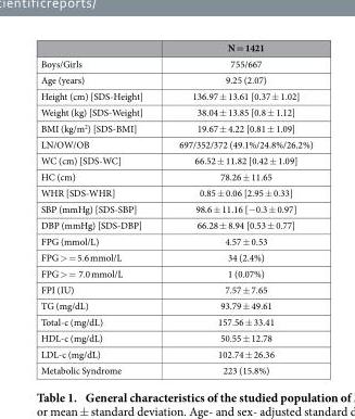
<table><thead><tr><td></td><td>N = 1421</td></tr></thead><tbody><tr><td>Boys/Girls</td><td>755/667</td></tr><tr><td>Age (years)</td><td>9.25 (2.07)</td></tr><tr><td>Height (cm) [SDS-Height]</td><td>136.97 ± 13.61 [0.37 ± 1.02]</td></tr><tr><td>Weight (kg) [SDS-Weight]</td><td>38.04 ± 13.85 [0.8 ± 1.12]</td></tr><tr><td>BMI (kg/m<sup>2</sup>) [SDS-BMI]</td><td>19.67 ± 4.22 [0.81 ± 1.09]</td></tr><tr><td>LN/OW/OB</td><td>697/352/372 (49.1%/24.8%/26.2%)</td></tr><tr><td>WC (cm) [SDS-WC]</td><td>66.52 ± 11.82 [0.42 ± 1.09]</td></tr><tr><td>HC (cm)</td><td>78.26 ± 11.65</td></tr><tr><td>WHR [SDS-WHR]</td><td>0.85 ± 0.06 [2.95 ± 0.33]</td></tr><tr><td>SBP (mmHg) [SDS-SBP]</td><td>98.6 ± 11.16 [− 0.3 ± 0.97]</td></tr><tr><td>DBP (mmHg) [SDS-DBP]</td><td>66.28 ± 8.94 [0.53 ± 0.77]</td></tr><tr><td>FPG (mmol/L)</td><td>4.57 ± 0.53</td></tr><tr><td>FPG &gt; = 5.6 mmol/L</td><td>34 (2.4%)</td></tr><tr><td>FPG &gt; = 7.0 mmol/L</td><td>1 (0.07%)</td></tr><tr><td>FPI (IU)</td><td>7.57 ± 7.65</td></tr><tr><td>TG (mg/dL)</td><td>93.79 ± 49.61</td></tr><tr><td>Total-c (mg/dL)</td><td>157.56 ± 33.41</td></tr><tr><td>HDL-c (mg/dL)</td><td>50.55 ± 12.78</td></tr><tr><td>LDL-c (mg/dL)</td><td>102.74 ± 26.36</td></tr><tr><td>Metabolic Syndrome</td><td>223 (15.8%)</td></tr></tbody></table>